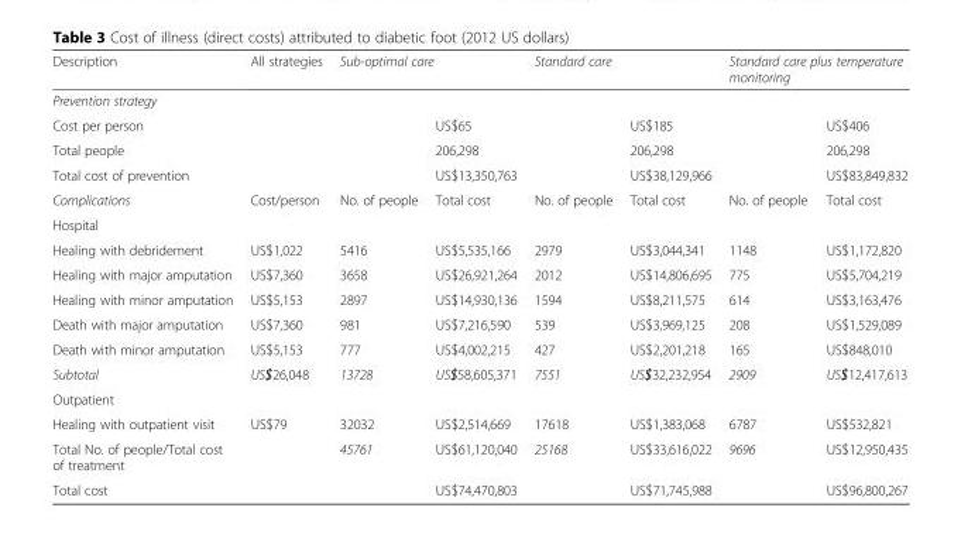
<table><thead><tr><td>Description</td><td>All strategies</td><td colspan="2">Sub-optimal care</td><td colspan="2">Standard care</td><td colspan="2">Standard care plus temperature monitoring</td></tr><tr><td colspan="8">Prevention strategy</td></tr><tr><td>Cost per person</td><td></td><td></td><td>US$65</td><td></td><td>US$185</td><td></td><td>US$406</td></tr></thead><tbody><tr><td>Total people</td><td></td><td></td><td>206,298</td><td></td><td>206,298</td><td></td><td>206,298</td></tr><tr><td>Total cost of prevention</td><td></td><td></td><td>US$13,350,763</td><td></td><td>US$38,129,966</td><td></td><td>US$83,849,832</td></tr><tr><td>Complications</td><td>Cost/person</td><td>No. of people</td><td>Total cost</td><td>No. of people</td><td>Total cost</td><td>No. of people</td><td>Total cost</td></tr><tr><td colspan="8">Hospital</td></tr><tr><td>Healing with debridement</td><td>US$1,022</td><td>5416</td><td>US$5,535,166</td><td>2979</td><td>US$3,044,341</td><td>1148</td><td>US$1,172,820</td></tr><tr><td>Healing with major amputation</td><td>US$7,360</td><td>3658</td><td>US$26,921,264</td><td>2012</td><td>US$14,806,695</td><td>775</td><td>US$5,704,219</td></tr><tr><td>Healing with minor amputation</td><td>US$5,153</td><td>2897</td><td>US$14,930,136</td><td>1594</td><td>US$8,211,575</td><td>614</td><td>US$3,163,476</td></tr><tr><td>Death with major amputation</td><td>US$7,360</td><td>981</td><td>US$7,216,590</td><td>539</td><td>US$3,969,125</td><td>208</td><td>US$1,529,089</td></tr><tr><td>Death with minor amputation</td><td>US$5,153</td><td>777</td><td>US$4,002,215</td><td>427</td><td>US$2,201,218</td><td>165</td><td>US$848,010</td></tr><tr><td>Subtotal</td><td>US$26,048</td><td>13728</td><td>US$58,605,371</td><td>7551</td><td>US$32,232,954</td><td>2909</td><td>US$12,417,613</td></tr><tr><td colspan="8">Outpatient</td></tr><tr><td>Healing with outpatient visit</td><td>US$79</td><td>32032</td><td>US$2,514,669</td><td>17618</td><td>US$1,383,068</td><td>6787</td><td>US$532,821</td></tr><tr><td>Total No. of people/Total cost of treatment</td><td></td><td>45761</td><td>US$61,120,040</td><td>25168</td><td>US$33,616,022</td><td>9696</td><td>US$12,950,435</td></tr><tr><td>Total cost</td><td></td><td></td><td>US$74,470,803</td><td></td><td>US$71,745,988</td><td></td><td>US$96,800,267</td></tr></tbody></table>